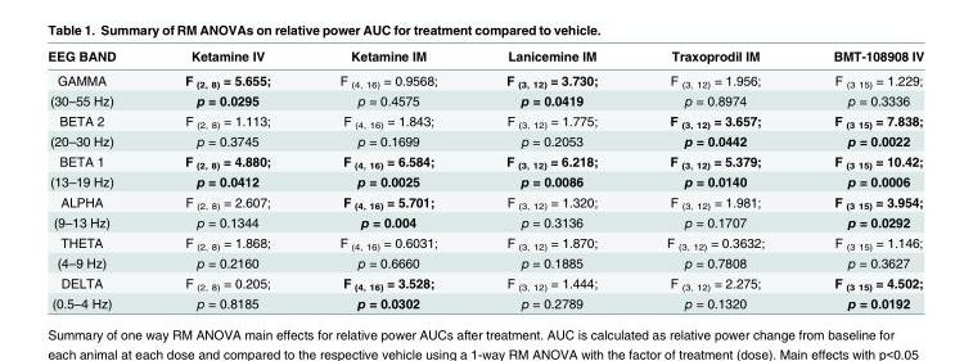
<table><thead><tr><td>EEG BAND</td><td>Ketamine IV</td><td>Ketamine IM</td><td>Lanicemine IM</td><td>Traxoprodil IM</td><td>BMT-108908 IV</td></tr></thead><tbody><tr><td>GAMMA</td><td>F <sub>(2, 8)</sub> = 5.655;</td><td>F <sub>(4, 16)</sub> = 0.9568;</td><td>F <sub>(3, 12)</sub> = 3.730;</td><td>F <sub>(3, 12)</sub> = 1.956;</td><td>F <sub>(3 15)</sub> = 1.229;</td></tr><tr><td>(30–55 Hz)</td><td>p = 0.0295</td><td>p = 0.4575</td><td>p = 0.0419</td><td>p = 0.8974</td><td>p = 0.3336</td></tr><tr><td>BETA 2</td><td>F <sub>(2, 8)</sub> = 1.113;</td><td>F <sub>(4, 16)</sub> = 1.843;</td><td>F <sub>(3, 12)</sub> = 1.775;</td><td>F <sub>(3, 12)</sub> = 3.657;</td><td>F <sub>(3 15)</sub> = 7.838;</td></tr><tr><td>(20–30 Hz)</td><td>p = 0.3745</td><td>p = 0.1699</td><td>p = 0.2053</td><td>p = 0.0442</td><td>p = 0.0022</td></tr><tr><td>BETA 1</td><td>F <sub>(2, 8)</sub> = 4.880;</td><td>F <sub>(4, 16)</sub> = 6.584;</td><td>F <sub>(3, 12)</sub> = 6.218;</td><td>F <sub>(3, 12)</sub> = 5.379;</td><td>F <sub>(3 15)</sub> = 10.42;</td></tr><tr><td>(13–19 Hz)</td><td>p = 0.0412</td><td>p = 0.0025</td><td>p = 0.0086</td><td>p = 0.0140</td><td>p = 0.0006</td></tr><tr><td>ALPHA</td><td>F <sub>(2, 8)</sub> = 2.607;</td><td>F <sub>(4, 16)</sub> = 5.701;</td><td>F <sub>(3, 12)</sub> = 1.320;</td><td>F <sub>(3, 12)</sub> = 1.981;</td><td>F <sub>(3 15)</sub> = 3.954;</td></tr><tr><td>(9–13 Hz)</td><td>p = 0.1344</td><td>p = 0.004</td><td>p = 0.3136</td><td>p = 0.1707</td><td>p = 0.0292</td></tr><tr><td>THETA</td><td>F <sub>(2, 8)</sub> = 1.868;</td><td>F <sub>(4, 16)</sub> = 0.6031;</td><td>F <sub>(3, 12)</sub> = 1.870;</td><td>F <sub>(3, 12)</sub> = 0.3632;</td><td>F <sub>(3 15)</sub> = 1.146;</td></tr><tr><td>(4–9 Hz)</td><td>p = 0.2160</td><td>p = 0.6660</td><td>p = 0.1885</td><td>p = 0.7808</td><td>p = 0.3627</td></tr><tr><td>DELTA</td><td>F <sub>(2, 8)</sub> = 0.205;</td><td>F <sub>(4, 16)</sub> = 3.528;</td><td>F <sub>(3, 12)</sub> = 1.444;</td><td>F <sub>(3, 12)</sub> = 2.275;</td><td>F <sub>(3 15)</sub> = 4.502;</td></tr><tr><td>(0.5–4 Hz)</td><td>p = 0.8185</td><td>p = 0.0302</td><td>p = 0.2789</td><td>p = 0.1320</td><td>p = 0.0192</td></tr></tbody></table>